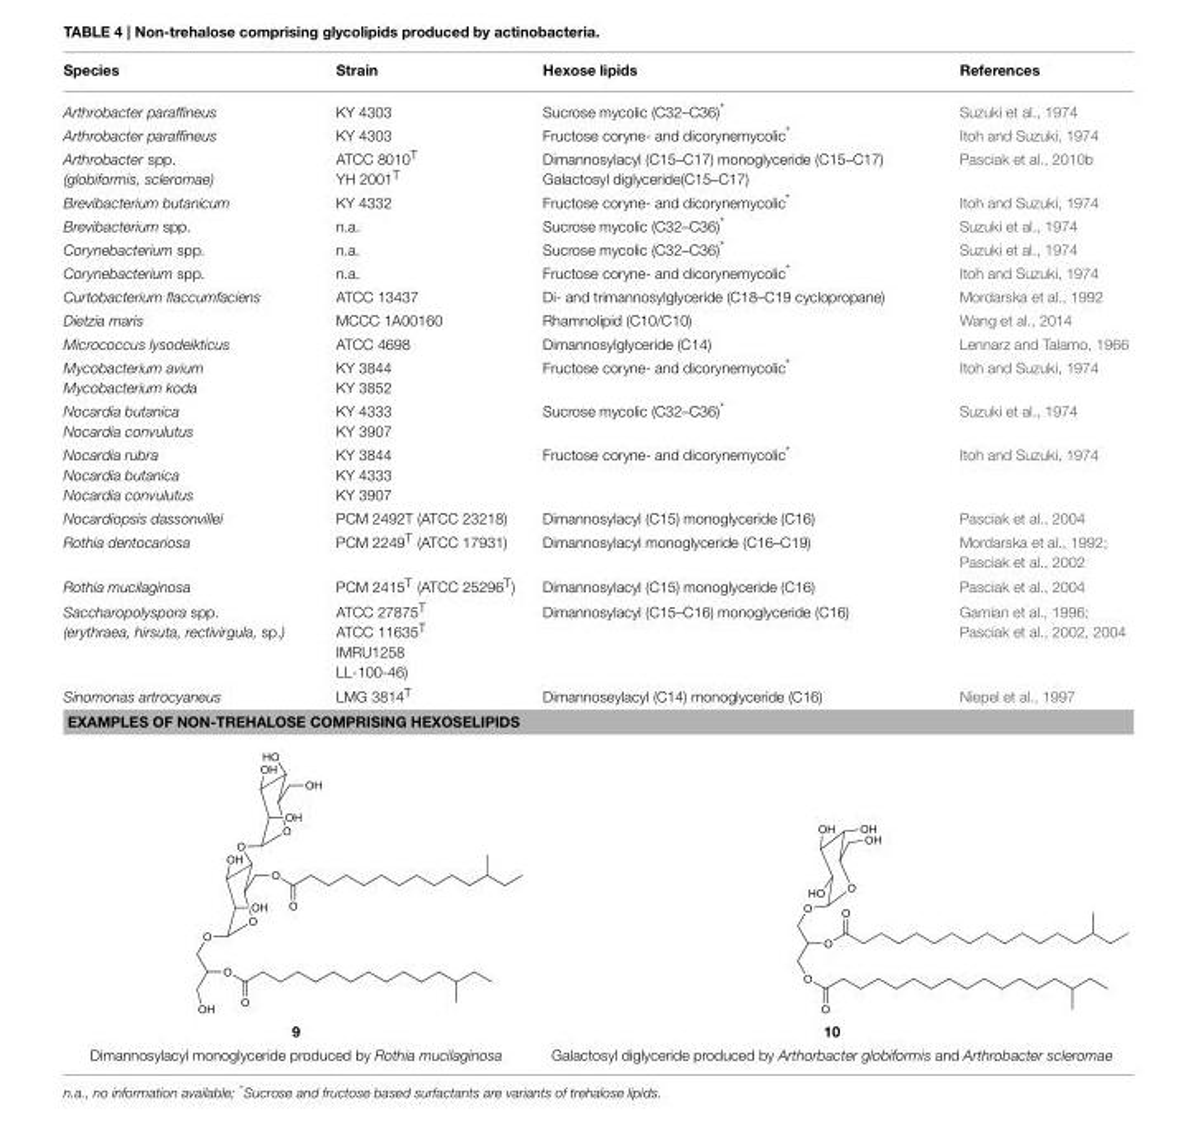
<table><thead><tr><td>Species</td><td>Strain</td><td>Hexose lipids</td><td>References</td></tr></thead><tbody><tr><td>Arthrobacter paraffineus</td><td>KY 4303</td><td>Sucrose mycolic (C32–C36)*</td><td>Suzuki et al., 1974</td></tr><tr><td>Arthrobacter paraffineus</td><td>KY 4303</td><td>Fructose coryne- and dicorynemycolic*</td><td>Itoh and Suzuki, 1974</td></tr><tr><td>Arthrobacter spp. (globiformis, scleromae)</td><td>ATCC 8010<sup>T</sup> YH 2001<sup>T</sup></td><td>Dimannosylacyl (C15–C17) monoglyceride (C15–C17) Galactosyl diglyceride(C15–C17)</td><td>Pasciak et al., 2010b</td></tr><tr><td>Brevibacterium butanicum</td><td>KY 4332</td><td>Fructose coryne- and dicorynemycolic*</td><td>Itoh and Suzuki, 1974</td></tr><tr><td>Brevibacterium spp.</td><td>n.a.</td><td>Sucrose mycolic (C32–C36)*</td><td>Suzuki et al., 1974</td></tr><tr><td>Corynebacterium spp.</td><td>n.a.</td><td>Sucrose mycolic (C32–C36)*</td><td>Suzuki et al., 1974</td></tr><tr><td>Corynebacterium spp.</td><td>n.a.</td><td>Fructose coryne- and dicorynemycolic*</td><td>Itoh and Suzuki, 1974</td></tr><tr><td>Curtobacterium flaccumfaciens</td><td>ATCC 13437</td><td>Di- and trimannosylglyceride (C18–C19 cyclopropane)</td><td>Mordarska et al., 1992</td></tr><tr><td>Dietzia maris</td><td>MCCC 1A00160</td><td>Rhamnolipid (C10/C10)</td><td>Wang et al., 2014</td></tr><tr><td>Micrococcus lysodeikticus</td><td>ATCC 4698</td><td>Dimannosylglyceride (C14)</td><td>Lennarz and Talamo, 1966</td></tr><tr><td>Mycobacterium avium Mycobacterium koda</td><td>KY 3844 KY 3852</td><td>Fructose coryne- and dicorynemycolic*</td><td>Itoh and Suzuki, 1974</td></tr><tr><td>Nocardia butanica Nocardia convulutus</td><td>KY 4333 KY 3907</td><td>Sucrose mycolic (C32–C36)*</td><td>Suzuki et al., 1974</td></tr><tr><td>Nocardia rubra Nocardia butanica Nocardia convulutus</td><td>KY 3844 KY 4333 KY 3907</td><td>Fructose coryne- and dicorynemycolic*</td><td>Itoh and Suzuki, 1974</td></tr><tr><td>Nocardiopsis dassonvillei</td><td>PCM 2492T (ATCC 23218)</td><td>Dimannosylacyl (C15) monoglyceride (C16)</td><td>Pasciak et al., 2004</td></tr><tr><td>Rothia dentocariosa</td><td>PCM 2249<sup>T</sup> (ATCC 17931)</td><td>Dimannosylacyl monoglyceride (C16–C19)</td><td>Mordarska et al., 1992; Pasciak et al., 2002</td></tr><tr><td>Rothia mucilaginosa</td><td>PCM 2415<sup>T</sup> (ATCC 25296<sup>T</sup>)</td><td>Dimannosylacyl (C15) monoglyceride (C16)</td><td>Pasciak et al., 2004</td></tr><tr><td>Saccharopolyspora spp. (erythraea, hirsuta, rectivirgula, sp.)</td><td>ATCC 27875<sup>T</sup> ATCC 11635<sup>T</sup> IMRU1258 LL-100-46)</td><td>Dimannosylacyl (C15–C16) monoglyceride (C16)</td><td>Gamian et al., 1996; Pasciak et al., 2002, 2004</td></tr><tr><td>Sinomonas artrocyaneus</td><td>LMG 3814<sup>T</sup></td><td>Dimannoseylacyl (C14) monoglyceride (C16)</td><td>Niepel et al., 1997</td></tr><tr><td colspan="4">EXAMPLES OF NON-TREHALOSE COMPRISING HEXOSELIPIDS</td></tr><tr><td colspan="2">9</td><td colspan="2">10</td></tr><tr><td colspan="2">Dimannosylacyl monoglyceride produced by Rothia mucilaginosa</td><td colspan="2">Galactosyl diglyceride produced by Arthorbacter globiformis and Arthrobacter scleromae</td></tr></tbody></table>